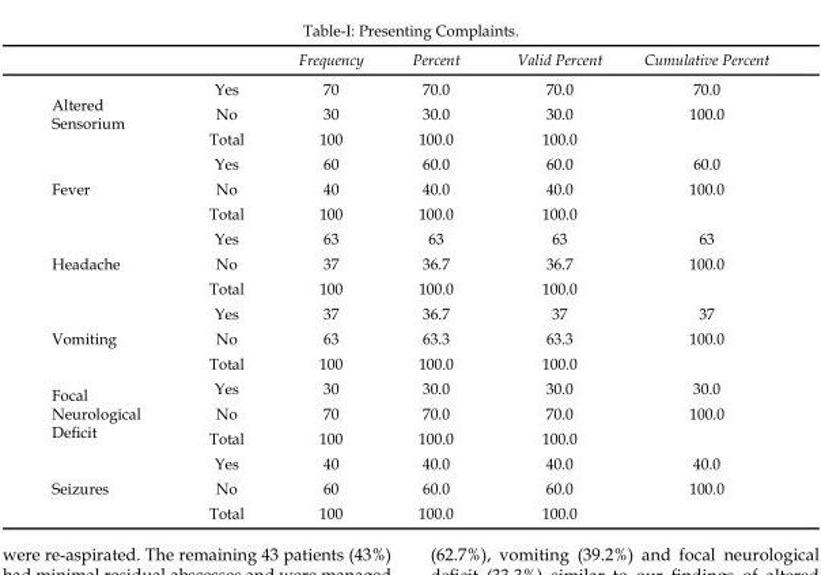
<table><thead><tr><td></td><td></td><td>Frequency</td><td>Percent</td><td>Valid Percent</td><td>Cumulative Percent</td></tr></thead><tbody><tr><td rowspan="3">Altered Sensorium</td><td>Yes</td><td>70</td><td>70.0</td><td>70.0</td><td>70.0</td></tr><tr><td>No</td><td>30</td><td>30.0</td><td>30.0</td><td>100.0</td></tr><tr><td>Total</td><td>100</td><td>100.0</td><td>100.0</td><td></td></tr><tr><td rowspan="3">Fever</td><td>Yes</td><td>60</td><td>60.0</td><td>60.0</td><td>60.0</td></tr><tr><td>No</td><td>40</td><td>40.0</td><td>40.0</td><td>100.0</td></tr><tr><td>Total</td><td>100</td><td>100.0</td><td>100.0</td><td></td></tr><tr><td rowspan="3">Headache</td><td>Yes</td><td>63</td><td>63</td><td>63</td><td>63</td></tr><tr><td>No</td><td>37</td><td>36.7</td><td>36.7</td><td>100.0</td></tr><tr><td>Total</td><td>100</td><td>100.0</td><td>100.0</td><td></td></tr><tr><td rowspan="3">Vomiting</td><td>Yes</td><td>37</td><td>36.7</td><td>37</td><td>37</td></tr><tr><td>No</td><td>63</td><td>63.3</td><td>63.3</td><td>100.0</td></tr><tr><td>Total</td><td>100</td><td>100.0</td><td>100.0</td><td></td></tr><tr><td rowspan="3">Focal Neurological Deficit</td><td>Yes</td><td>30</td><td>30.0</td><td>30.0</td><td>30.0</td></tr><tr><td>No</td><td>70</td><td>70.0</td><td>70.0</td><td>100.0</td></tr><tr><td>Total</td><td>100</td><td>100.0</td><td>100.0</td><td></td></tr><tr><td rowspan="3">Seizures</td><td>Yes</td><td>40</td><td>40.0</td><td>40.0</td><td>40.0</td></tr><tr><td>No</td><td>60</td><td>60.0</td><td>60.0</td><td>100.0</td></tr><tr><td>Total</td><td>100</td><td>100.0</td><td>100.0</td><td></td></tr></tbody></table>